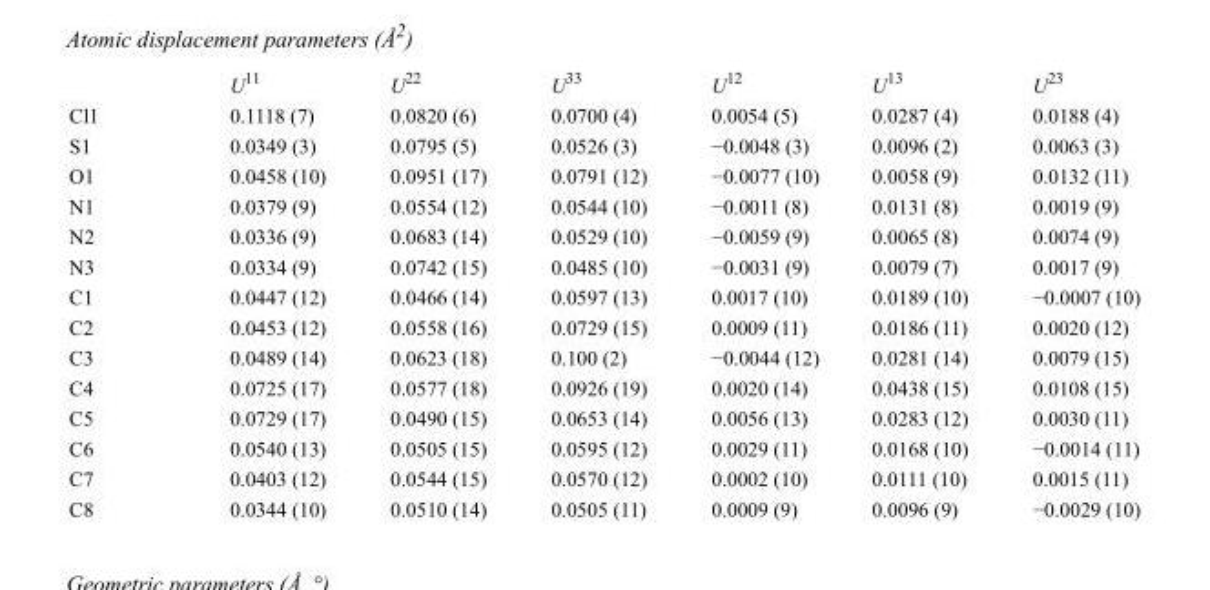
<table><thead><tr><td></td><td>U<sup>11</sup></td><td>U<sup>22</sup></td><td>U<sup>33</sup></td><td>U<sup>12</sup></td><td>U<sup>13</sup></td><td>U<sup>23</sup></td></tr></thead><tbody><tr><td>Cl1</td><td>0.1118 (7)</td><td>0.0820 (6)</td><td>0.0700 (4)</td><td>0.0054 (5)</td><td>0.0287 (4)</td><td>0.0188 (4)</td></tr><tr><td>S1</td><td>0.0349 (3)</td><td>0.0795 (5)</td><td>0.0526 (3)</td><td>−0.0048 (3)</td><td>0.0096 (2)</td><td>0.0063 (3)</td></tr><tr><td>O1</td><td>0.0458 (10)</td><td>0.0951 (17)</td><td>0.0791 (12)</td><td>−0.0077 (10)</td><td>0.0058 (9)</td><td>0.0132 (11)</td></tr><tr><td>N1</td><td>0.0379 (9)</td><td>0.0554 (12)</td><td>0.0544 (10)</td><td>−0.0011 (8)</td><td>0.0131 (8)</td><td>0.0019 (9)</td></tr><tr><td>N2</td><td>0.0336 (9)</td><td>0.0683 (14)</td><td>0.0529 (10)</td><td>−0.0059 (9)</td><td>0.0065 (8)</td><td>0.0074 (9)</td></tr><tr><td>N3</td><td>0.0334 (9)</td><td>0.0742 (15)</td><td>0.0485 (10)</td><td>−0.0031 (9)</td><td>0.0079 (7)</td><td>0.0017 (9)</td></tr><tr><td>C1</td><td>0.0447 (12)</td><td>0.0466 (14)</td><td>0.0597 (13)</td><td>0.0017 (10)</td><td>0.0189 (10)</td><td>−0.0007 (10)</td></tr><tr><td>C2</td><td>0.0453 (12)</td><td>0.0558 (16)</td><td>0.0729 (15)</td><td>0.0009 (11)</td><td>0.0186 (11)</td><td>0.0020 (12)</td></tr><tr><td>C3</td><td>0.0489 (14)</td><td>0.0623 (18)</td><td>0.100 (2)</td><td>−0.0044 (12)</td><td>0.0281 (14)</td><td>0.0079 (15)</td></tr><tr><td>C4</td><td>0.0725 (17)</td><td>0.0577 (18)</td><td>0.0926 (19)</td><td>0.0020 (14)</td><td>0.0438 (15)</td><td>0.0108 (15)</td></tr><tr><td>C5</td><td>0.0729 (17)</td><td>0.0490 (15)</td><td>0.0653 (14)</td><td>0.0056 (13)</td><td>0.0283 (12)</td><td>0.0030 (11)</td></tr><tr><td>C6</td><td>0.0540 (13)</td><td>0.0505 (15)</td><td>0.0595 (12)</td><td>0.0029 (11)</td><td>0.0168 (10)</td><td>−0.0014 (11)</td></tr><tr><td>C7</td><td>0.0403 (12)</td><td>0.0544 (15)</td><td>0.0570 (12)</td><td>0.0002 (10)</td><td>0.0111 (10)</td><td>0.0015 (11)</td></tr><tr><td>C8</td><td>0.0344 (10)</td><td>0.0510 (14)</td><td>0.0505 (11)</td><td>0.0009 (9)</td><td>0.0096 (9)</td><td>−0.0029 (10)</td></tr></tbody></table>